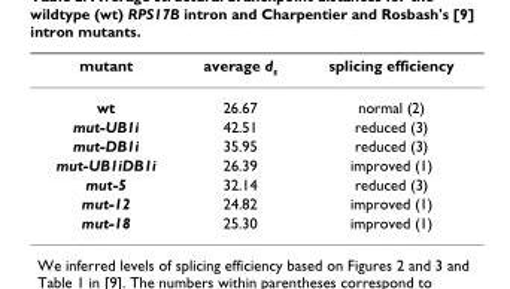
<table><thead><tr><td>mutant</td><td>average d<sub>s</sub></td><td>splicing efficiency</td></tr></thead><tbody><tr><td>wt</td><td>26.67</td><td>normal (2)</td></tr><tr><td>mut-UB1i</td><td>42.51</td><td>reduced (3)</td></tr><tr><td>mut-DB1i</td><td>35.95</td><td>reduced (3)</td></tr><tr><td>mut-UB1iDB1i</td><td>26.39</td><td>improved (1)</td></tr><tr><td>mut-5</td><td>32.14</td><td>reduced (3)</td></tr><tr><td>mut-12</td><td>24.82</td><td>improved (1)</td></tr><tr><td>mut-18</td><td>25.30</td><td>improved (1)</td></tr></tbody></table>